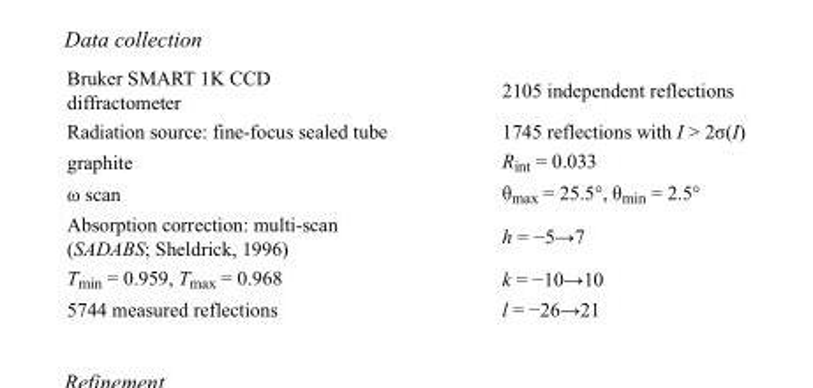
<table><tbody><tr><td>Bruker SMART 1K CCD diffractometer</td><td>2105 independent reflections</td></tr><tr><td>Radiation source: fine-focus sealed tube</td><td>1745 reflections with I &gt; 2σ(I)</td></tr><tr><td>graphite</td><td>R<sub>int</sub> = 0.033</td></tr><tr><td>ω scan</td><td>θ<sub>max</sub> = 25.5°, θ<sub>min</sub> = 2.5°</td></tr><tr><td>Absorption correction: multi-scan (SADABS; Sheldrick, 1996)</td><td>h = −5→7</td></tr><tr><td>T<sub>min</sub> = 0.959, T<sub>max</sub> = 0.968</td><td>k = −10→10</td></tr><tr><td>5744 measured reflections</td><td>l = −26→21</td></tr></tbody></table>